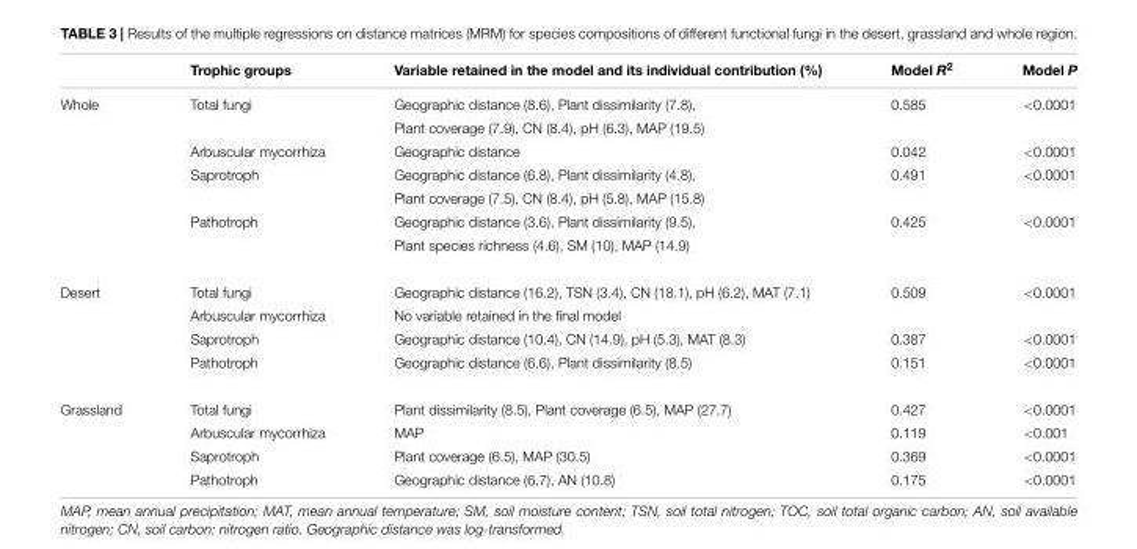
<table><thead><tr><td></td><td>Trophic groups</td><td>Variable retained in the model and its individual contribution (%)</td><td>Model R<sup>2</sup></td><td>Model P</td></tr></thead><tbody><tr><td rowspan="7">Whole</td><td>Total fungi</td><td>Geographic distance (8.6), Plant dissimilarity (7.8),</td><td>0.585</td><td>&lt;0.0001</td></tr><tr><td></td><td>Plant coverage (7.9), CN (8.4), pH (6.3), MAP (19.5)</td><td></td><td></td></tr><tr><td>Arbuscular mycorrhiza</td><td>Geographic distance</td><td>0.042</td><td>&lt;0.0001</td></tr><tr><td>Saprotroph</td><td>Geographic distance (6.8), Plant dissimilarity (4.8),</td><td>0.491</td><td>&lt;0.0001</td></tr><tr><td></td><td>Plant coverage (7.5), CN (8.4), pH (5.8), MAP (15.8)</td><td></td><td></td></tr><tr><td>Pathotroph</td><td>Geographic distance (3.6), Plant dissimilarity (9.5),</td><td>0.425</td><td>&lt;0.0001</td></tr><tr><td></td><td>Plant species richness (4.6), SM (10), MAP (14.9)</td><td></td><td></td></tr><tr><td rowspan="4">Desert</td><td>Total fungi</td><td>Geographic distance (16.2), TSN (3.4), CN (18.1), pH (6.2), MAT (7.1)</td><td>0.509</td><td>&lt;0.0001</td></tr><tr><td>Arbuscular mycorrhiza</td><td>No variable retained in the final model</td><td></td><td></td></tr><tr><td>Saprotroph</td><td>Geographic distance (10.4), CN (14.9), pH (5.3), MAT (8.3)</td><td>0.387</td><td>&lt;0.0001</td></tr><tr><td>Pathotroph</td><td>Geographic distance (6.6), Plant dissimilarity (8.5)</td><td>0.151</td><td>&lt;0.0001</td></tr><tr><td rowspan="4">Grassland</td><td>Total fungi</td><td>Plant dissimilarity (8.5), Plant coverage (6.5), MAP (27.7)</td><td>0.427</td><td>&lt;0.0001</td></tr><tr><td>Arbuscular mycorrhiza</td><td>MAP</td><td>0.119</td><td>&lt;0.001</td></tr><tr><td>Saprotroph</td><td>Plant coverage (6.5), MAP (30.5)</td><td>0.369</td><td>&lt;0.0001</td></tr><tr><td>Pathotroph</td><td>Geographic distance (6.7), AN (10.8)</td><td>0.175</td><td>&lt;0.0001</td></tr></tbody></table>